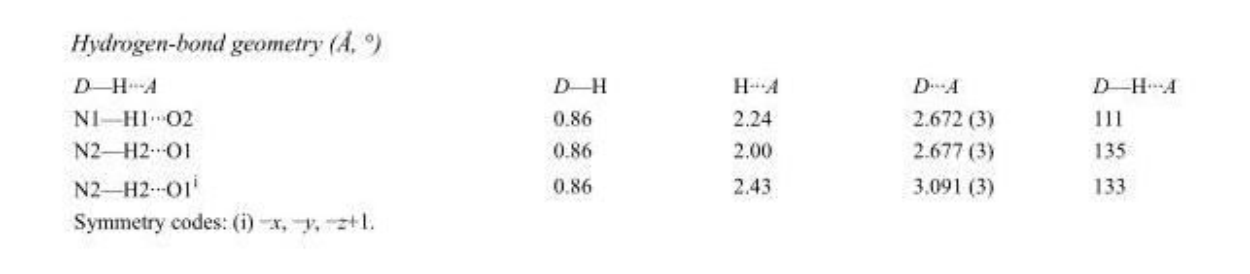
<table><tbody><tr><td>D—H···A</td><td>D—H</td><td>H···A</td><td>D···A</td><td>D—H···A</td></tr><tr><td>N1—H1···O2</td><td>0.86</td><td>2.24</td><td>2.672 (3)</td><td>111</td></tr><tr><td>N2—H2···O1</td><td>0.86</td><td>2.00</td><td>2.677 (3)</td><td>135</td></tr><tr><td>N2—H2···O1<sup>i</sup></td><td>0.86</td><td>2.43</td><td>3.091 (3)</td><td>133</td></tr></tbody></table>